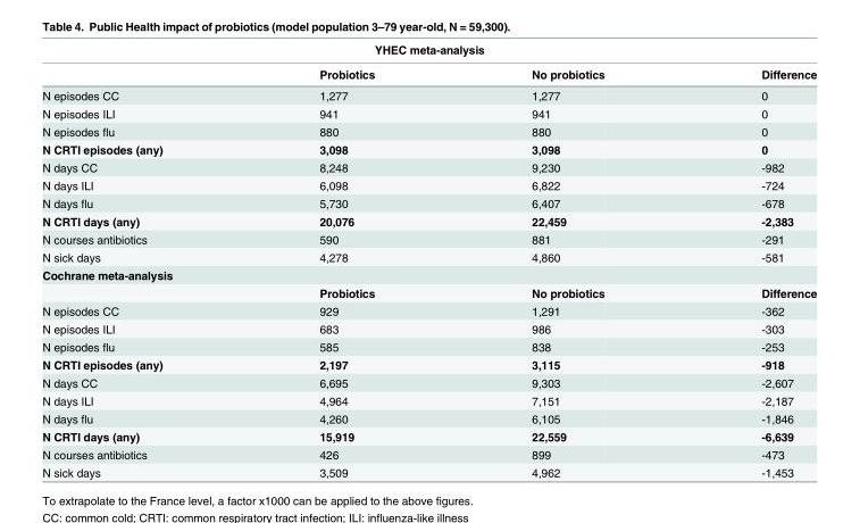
<table><thead><tr><td colspan="4">YHEC meta-analysis</td></tr><tr><td></td><td>Probiotics</td><td>No probiotics</td><td>Difference</td></tr></thead><tbody><tr><td>N episodes CC</td><td>1,277</td><td>1,277</td><td>0</td></tr><tr><td>N episodes ILI</td><td>941</td><td>941</td><td>0</td></tr><tr><td>N episodes flu</td><td>880</td><td>880</td><td>0</td></tr><tr><td>N CRTI episodes (any)</td><td>3,098</td><td>3,098</td><td>0</td></tr><tr><td>N days CC</td><td>8,248</td><td>9,230</td><td>-982</td></tr><tr><td>N days ILI</td><td>6,098</td><td>6,822</td><td>-724</td></tr><tr><td>N days flu</td><td>5,730</td><td>6,407</td><td>-678</td></tr><tr><td>N CRTI days (any)</td><td>20,076</td><td>22,459</td><td>-2,383</td></tr><tr><td>N courses antibiotics</td><td>590</td><td>881</td><td>-291</td></tr><tr><td>N sick days</td><td>4,278</td><td>4,860</td><td>-581</td></tr><tr><td colspan="4">Cochrane meta-analysis</td></tr><tr><td></td><td>Probiotics</td><td>No probiotics</td><td>Difference</td></tr><tr><td>N episodes CC</td><td>929</td><td>1,291</td><td>-362</td></tr><tr><td>N episodes ILI</td><td>683</td><td>986</td><td>-303</td></tr><tr><td>N episodes flu</td><td>585</td><td>838</td><td>-253</td></tr><tr><td>N CRTI episodes (any)</td><td>2,197</td><td>3,115</td><td>-918</td></tr><tr><td>N days CC</td><td>6,695</td><td>9,303</td><td>-2,607</td></tr><tr><td>N days ILI</td><td>4,964</td><td>7,151</td><td>-2,187</td></tr><tr><td>N days flu</td><td>4,260</td><td>6,105</td><td>-1,846</td></tr><tr><td>N CRTI days (any)</td><td>15,919</td><td>22,559</td><td>-6,639</td></tr><tr><td>N courses antibiotics</td><td>426</td><td>899</td><td>-473</td></tr><tr><td>N sick days</td><td>3,509</td><td>4,962</td><td>-1,453</td></tr></tbody></table>